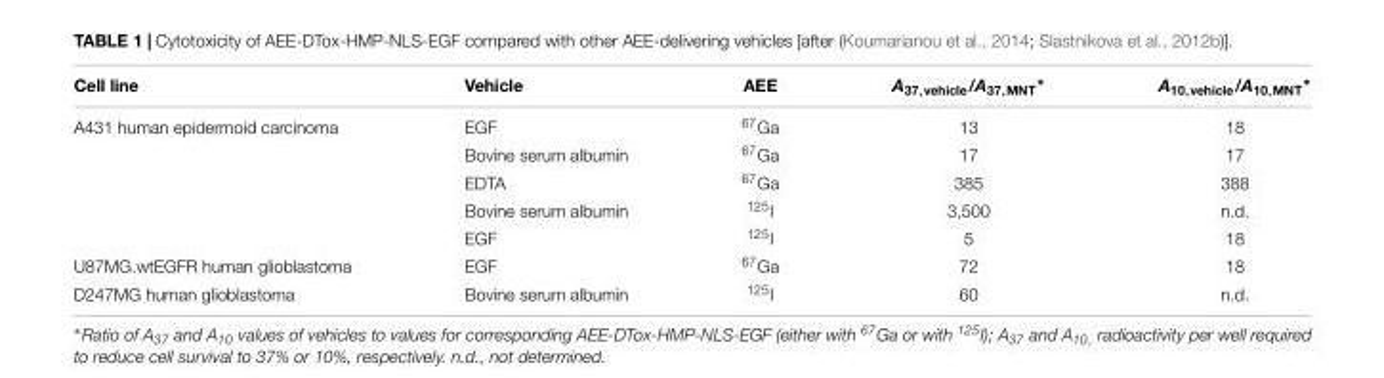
<table><thead><tr><td>Cell line</td><td>Vehicle</td><td>AEE</td><td>A<sub>37,vehicle</sub>/A<sub>37,MNT</sub>∗</td><td>A<sub>10,vehicle</sub>/A<sub>10,MNT</sub>∗</td></tr></thead><tbody><tr><td rowspan="5">A431 human epidermoid carcinoma</td><td>EGF</td><td><sup>67</sup>Ga</td><td>13</td><td>18</td></tr><tr><td>Bovine serum albumin</td><td><sup>67</sup>Ga</td><td>17</td><td>17</td></tr><tr><td>EDTA</td><td><sup>67</sup>Ga</td><td>385</td><td>388</td></tr><tr><td>Bovine serum albumin</td><td><sup>125</sup>I</td><td>3,500</td><td>n.d.</td></tr><tr><td>EGF</td><td><sup>125</sup>I</td><td>5</td><td>18</td></tr><tr><td>U87MG.wtEGFR human glioblastoma</td><td>EGF</td><td><sup>67</sup>Ga</td><td>72</td><td>18</td></tr><tr><td>D247MG human glioblastoma</td><td>Bovine serum albumin</td><td><sup>125</sup>I</td><td>60</td><td>n.d.</td></tr></tbody></table>